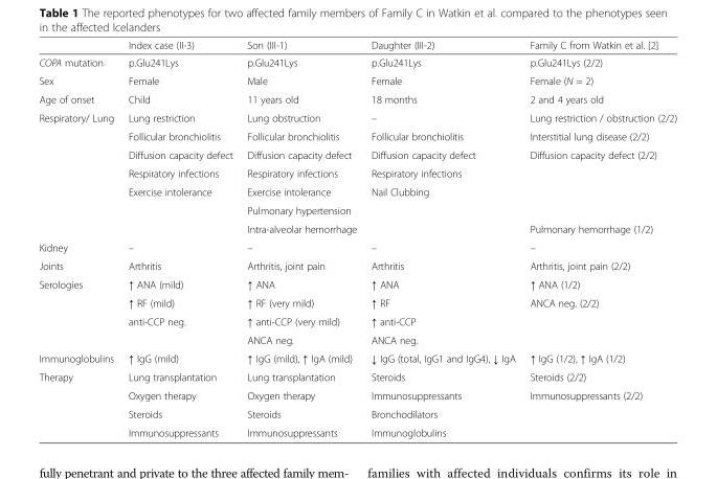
<table><thead><tr><td></td><td>Index case (II-3)</td><td>Son (III-1)</td><td>Daughter (III-2)</td><td>Family C from Watkin et al. [2]</td></tr></thead><tbody><tr><td>COPA mutation</td><td>p.Glu241Lys</td><td>p.Glu241Lys</td><td>p.Glu241Lys</td><td>p.Glu241Lys (2/2)</td></tr><tr><td>Sex</td><td>Female</td><td>Male</td><td>Female</td><td>Female (N = 2)</td></tr><tr><td>Age of onset</td><td>Child</td><td>11 years old</td><td>18 months</td><td>2 and 4 years old</td></tr><tr><td rowspan="7">Respiratory/ Lung</td><td>Lung restriction</td><td>Lung obstruction</td><td>–</td><td>Lung restriction / obstruction (2/2)</td></tr><tr><td>Follicular bronchiolitis</td><td>Follicular bronchiolitis</td><td>Follicular bronchiolitis</td><td>Interstitial lung disease (2/2)</td></tr><tr><td>Diffusion capacity defect</td><td>Diffusion capacity defect</td><td>Diffusion capacity defect</td><td>Diffusion capacity defect (2/2)</td></tr><tr><td>Respiratory infections</td><td>Respiratory infections</td><td>Respiratory infections</td><td></td></tr><tr><td>Exercise intolerance</td><td>Exercise intolerance</td><td>Nail Clubbing</td><td></td></tr><tr><td></td><td>Pulmonary hypertension</td><td></td><td></td></tr><tr><td></td><td>Intra-alveolar hemorrhage</td><td></td><td>Pulmonary hemorrhage (1/2)</td></tr><tr><td>Kidney</td><td>–</td><td>–</td><td>–</td><td>–</td></tr><tr><td>Joints</td><td>Arthritis</td><td>Arthritis, joint pain</td><td>Arthritis</td><td>Arthritis, joint pain (2/2)</td></tr><tr><td rowspan="4">Serologies</td><td>↑ ANA (mild)</td><td>↑ ANA</td><td>↑ ANA</td><td>↑ ANA (1/2)</td></tr><tr><td>↑ RF (mild)</td><td>↑ RF (very mild)</td><td>↑ RF</td><td>ANCA neg. (2/2)</td></tr><tr><td>anti-CCP neg.</td><td>↑ anti-CCP (very mild)</td><td>↑ anti-CCP</td><td></td></tr><tr><td></td><td>ANCA neg.</td><td>ANCA neg.</td><td></td></tr><tr><td>Immunoglobulins</td><td>↑ IgG (mild)</td><td>↑ IgG (mild), ↑ IgA (mild)</td><td>↓ IgG (total, IgG1 and IgG4), ↓ IgA</td><td>↑ IgG (1/2), ↑ IgA (1/2)</td></tr><tr><td rowspan="4">Therapy</td><td>Lung transplantation</td><td>Lung transplantation</td><td>Steroids</td><td>Steroids (2/2)</td></tr><tr><td>Oxygen therapy</td><td>Oxygen therapy</td><td>Immunosuppressants</td><td>Immunosuppressants (2/2)</td></tr><tr><td>Steroids</td><td>Steroids</td><td>Bronchodilators</td><td></td></tr><tr><td>Immunosuppressants</td><td>Immunosuppressants</td><td>Immunoglobulins</td><td></td></tr></tbody></table>